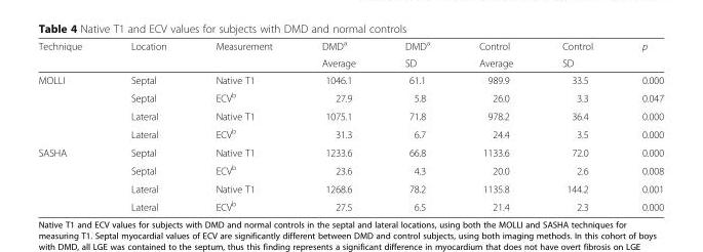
<table><thead><tr><td rowspan="2">Technique</td><td rowspan="2">Location</td><td rowspan="2">Measurement</td><td rowspan="2">DMD<sup>a</sup> Average</td><td rowspan="2">DMD<sup>a</sup> SD</td><td rowspan="2">Control Average</td><td rowspan="2">Control SD</td><td rowspan="2">p</td></tr><tr></tr></thead><tbody><tr><td rowspan="4">MOLLI</td><td>Septal</td><td>Native T1</td><td>1046.1</td><td>61.1</td><td>989.9</td><td>33.5</td><td>0.000</td></tr><tr><td>Septal</td><td>ECV<sup>b</sup></td><td>27.9</td><td>5.8</td><td>26.0</td><td>3.3</td><td>0.047</td></tr><tr><td>Lateral</td><td>Native T1</td><td>1075.1</td><td>71.8</td><td>978.2</td><td>36.4</td><td>0.000</td></tr><tr><td>Lateral</td><td>ECV<sup>b</sup></td><td>31.3</td><td>6.7</td><td>24.4</td><td>3.5</td><td>0.000</td></tr><tr><td rowspan="4">SASHA</td><td>Septal</td><td>Native T1</td><td>1233.6</td><td>66.8</td><td>1133.6</td><td>72.0</td><td>0.000</td></tr><tr><td>Septal</td><td>ECV<sup>b</sup></td><td>23.6</td><td>4.3</td><td>20.0</td><td>2.6</td><td>0.008</td></tr><tr><td>Lateral</td><td>Native T1</td><td>1268.6</td><td>78.2</td><td>1135.8</td><td>144.2</td><td>0.001</td></tr><tr><td>Lateral</td><td>ECV<sup>b</sup></td><td>27.5</td><td>6.5</td><td>21.4</td><td>2.3</td><td>0.000</td></tr></tbody></table>